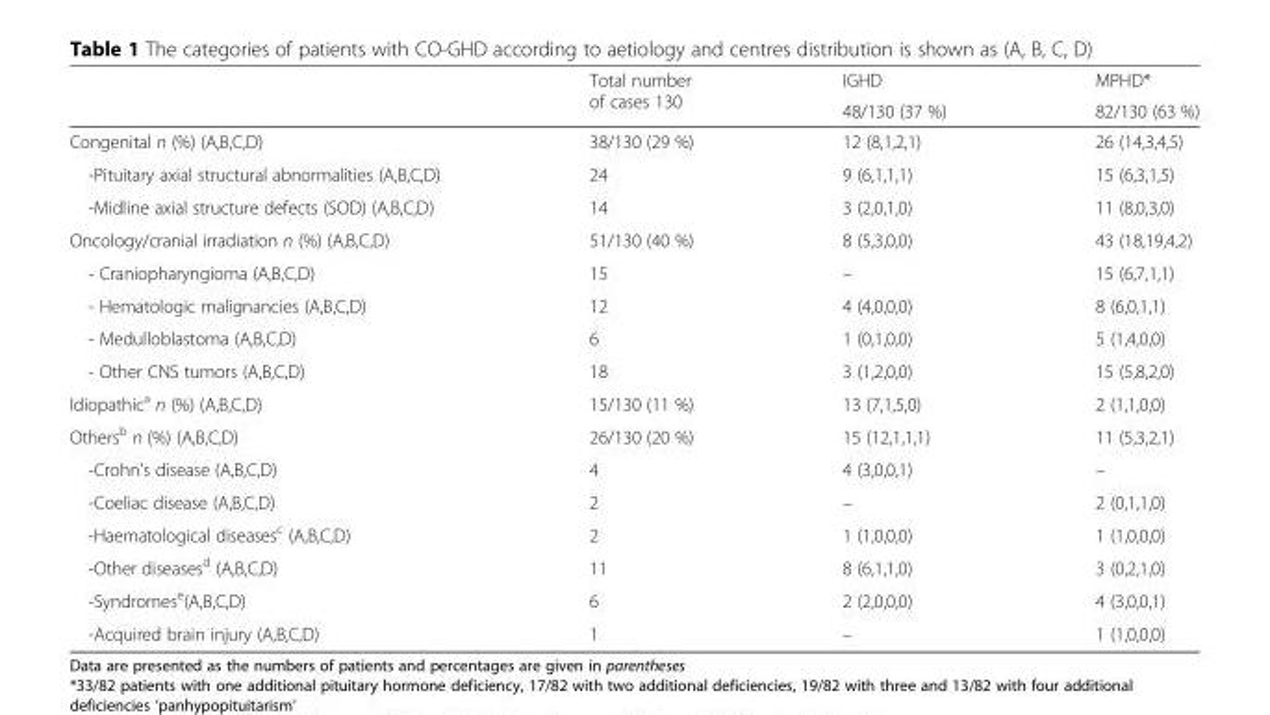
<table><thead><tr><td rowspan="2"></td><td rowspan="2">Total number of cases 130</td><td rowspan="2">IGHD 48/130 (37 %)</td><td rowspan="2">MPHD* 82/130 (63 %)</td></tr><tr></tr></thead><tbody><tr><td>Congenital n (%) (A,B,C,D)</td><td>38/130 (29 %)</td><td>12 (8,1,2,1)</td><td>26 (14,3,4,5)</td></tr><tr><td>-Pituitary axial structural abnormalities (A,B,C,D)</td><td>24</td><td>9 (6,1,1,1)</td><td>15 (6,3,1,5)</td></tr><tr><td>-Midline axial structure defects (SOD) (A,B,C,D)</td><td>14</td><td>3 (2,0,1,0)</td><td>11 (8,0,3,0)</td></tr><tr><td>Oncology/cranial irradiation n (%) (A,B,C,D)</td><td>51/130 (40 %)</td><td>8 (5,3,0,0)</td><td>43 (18,19,4,2)</td></tr><tr><td>- Craniopharyngioma (A,B,C,D)</td><td>15</td><td>–</td><td>15 (6,7,1,1)</td></tr><tr><td>- Hematologic malignancies (A,B,C,D)</td><td>12</td><td>4 (4,0,0,0)</td><td>8 (6,0,1,1)</td></tr><tr><td>- Medulloblastoma (A,B,C,D)</td><td>6</td><td>1 (0,1,0,0)</td><td>5 (1,4,0,0)</td></tr><tr><td>- Other CNS tumors (A,B,C,D)</td><td>18</td><td>3 (1,2,0,0)</td><td>15 (5,8,2,0)</td></tr><tr><td>Idiopathic<sup>a</sup> n (%) (A,B,C,D)</td><td>15/130 (11 %)</td><td>13 (7,1,5,0)</td><td>2 (1,1,0,0)</td></tr><tr><td>Others<sup>b</sup> n (%) (A,B,C,D)</td><td>26/130 (20 %)</td><td>15 (12,1,1,1)</td><td>11 (5,3,2,1)</td></tr><tr><td>-Crohn&#x27;s disease (A,B,C,D)</td><td>4</td><td>4 (3,0,0,1)</td><td>–</td></tr><tr><td>-Coeliac disease (A,B,C,D)</td><td>2</td><td>–</td><td>2 (0,1,1,0)</td></tr><tr><td>-Haematological diseases<sup>c</sup> (A,B,C,D)</td><td>2</td><td>1 (1,0,0,0)</td><td>1 (1,0,0,0)</td></tr><tr><td>-Other diseases<sup>d</sup> (A,B,C,D)</td><td>11</td><td>8 (6,1,1,0)</td><td>3 (0,2,1,0)</td></tr><tr><td>-Syndromes<sup>e</sup>(A,B,C,D)</td><td>6</td><td>2 (2,0,0,0)</td><td>4 (3,0,0,1)</td></tr><tr><td>-Acquired brain injury (A,B,C,D)</td><td>1</td><td>–</td><td>1 (1,0,0,0)</td></tr></tbody></table>